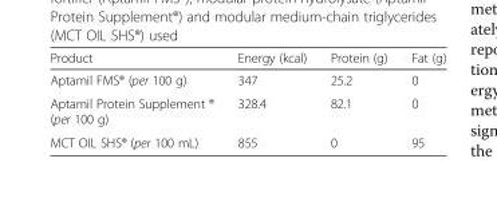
<table><thead><tr><td>Product</td><td>Energy (kcal)</td><td>Protein (g)</td><td>Fat (g)</td></tr></thead><tbody><tr><td>Aptamil FMS® (per 100 g)</td><td>347</td><td>25.2</td><td>0</td></tr><tr><td>Aptamil Protein Supplement ® (per 100 g)</td><td>328.4</td><td>82.1</td><td>0</td></tr><tr><td>MCT OIL SHS® (per 100 mL)</td><td>855</td><td>0</td><td>95</td></tr></tbody></table>